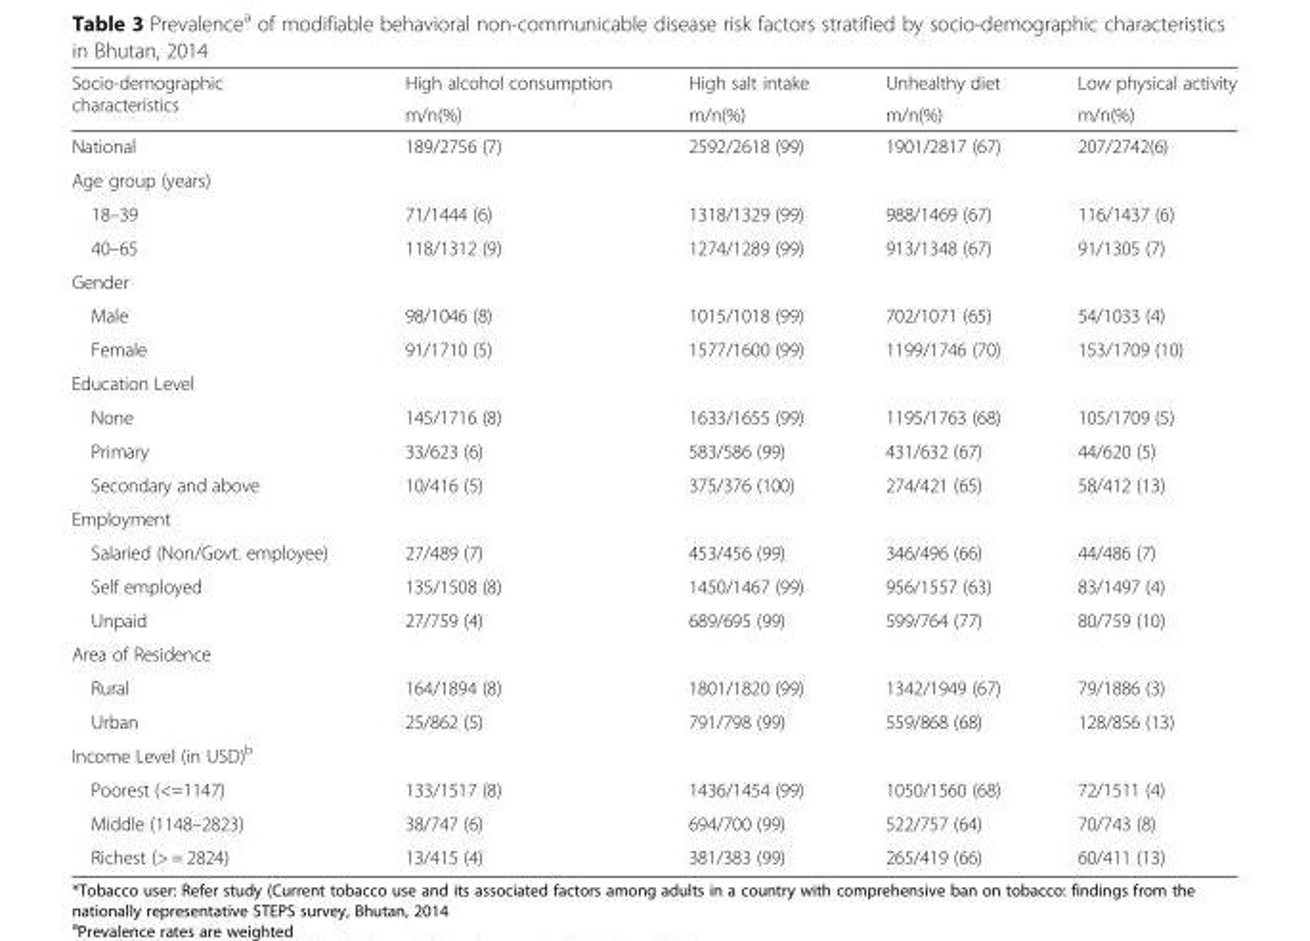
<table><thead><tr><td rowspan="2">Socio-demographic characteristics</td><td rowspan="2">High alcohol consumption m/n(%)</td><td rowspan="2">High salt intake m/n(%)</td><td rowspan="2">Unhealthy diet m/n(%)</td><td rowspan="2">Low physical activity m/n(%)</td></tr><tr></tr></thead><tbody><tr><td>National</td><td>189/2756 (7)</td><td>2592/2618 (99)</td><td>1901/2817 (67)</td><td>207/2742(6)</td></tr><tr><td colspan="5">Age group (years)</td></tr><tr><td>18–39</td><td>71/1444 (6)</td><td>1318/1329 (99)</td><td>988/1469 (67)</td><td>116/1437 (6)</td></tr><tr><td>40–65</td><td>118/1312 (9)</td><td>1274/1289 (99)</td><td>913/1348 (67)</td><td>91/1305 (7)</td></tr><tr><td colspan="5">Gender</td></tr><tr><td>Male</td><td>98/1046 (8)</td><td>1015/1018 (99)</td><td>702/1071 (65)</td><td>54/1033 (4)</td></tr><tr><td>Female</td><td>91/1710 (5)</td><td>1577/1600 (99)</td><td>1199/1746 (70)</td><td>153/1709 (10)</td></tr><tr><td colspan="5">Education Level</td></tr><tr><td>None</td><td>145/1716 (8)</td><td>1633/1655 (99)</td><td>1195/1763 (68)</td><td>105/1709 (5)</td></tr><tr><td>Primary</td><td>33/623 (6)</td><td>583/586 (99)</td><td>431/632 (67)</td><td>44/620 (5)</td></tr><tr><td>Secondary and above</td><td>10/416 (5)</td><td>375/376 (100)</td><td>274/421 (65)</td><td>58/412 (13)</td></tr><tr><td colspan="5">Employment</td></tr><tr><td>Salaried (Non/Govt. employee)</td><td>27/489 (7)</td><td>453/456 (99)</td><td>346/496 (66)</td><td>44/486 (7)</td></tr><tr><td>Self employed</td><td>135/1508 (8)</td><td>1450/1467 (99)</td><td>956/1557 (63)</td><td>83/1497 (4)</td></tr><tr><td>Unpaid</td><td>27/759 (4)</td><td>689/695 (99)</td><td>599/764 (77)</td><td>80/759 (10)</td></tr><tr><td colspan="5">Area of Residence</td></tr><tr><td>Rural</td><td>164/1894 (8)</td><td>1801/1820 (99)</td><td>1342/1949 (67)</td><td>79/1886 (3)</td></tr><tr><td>Urban</td><td>25/862 (5)</td><td>791/798 (99)</td><td>559/868 (68)</td><td>128/856 (13)</td></tr><tr><td colspan="5">Income Level (in USD)<sup>b</sup></td></tr><tr><td>Poorest (&lt;=1147)</td><td>133/1517 (8)</td><td>1436/1454 (99)</td><td>1050/1560 (68)</td><td>72/1511 (4)</td></tr><tr><td>Middle (1148–2823)</td><td>38/747 (6)</td><td>694/700 (99)</td><td>522/757 (64)</td><td>70/743 (8)</td></tr><tr><td>Richest (&gt; = 2824)</td><td>13/415 (4)</td><td>381/383 (99)</td><td>265/419 (66)</td><td>60/411 (13)</td></tr></tbody></table>